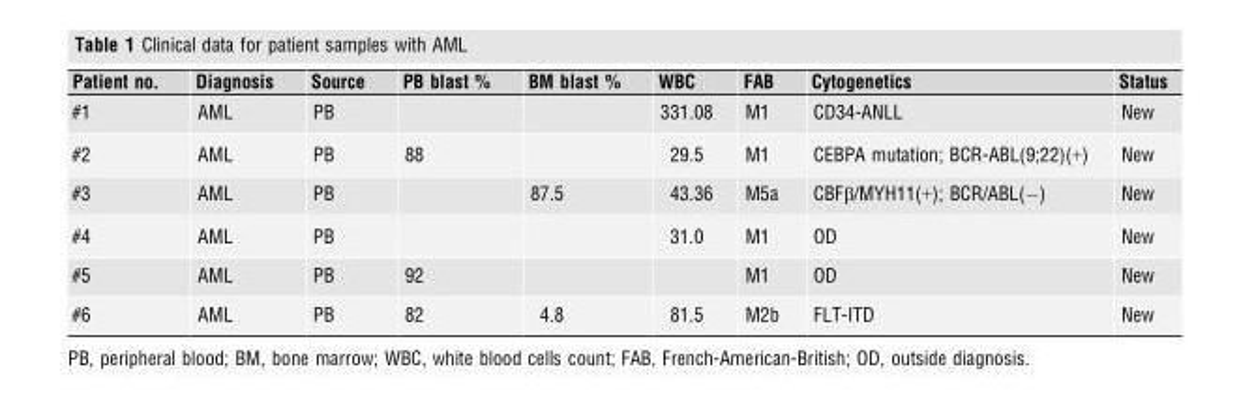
<table><thead><tr><td>Patient no.</td><td>Diagnosis</td><td>Source</td><td>PB blast %</td><td>BM blast %</td><td>WBC</td><td>FAB</td><td>Cytogenetics</td><td>Status</td></tr></thead><tbody><tr><td>#1</td><td>AML</td><td>PB</td><td></td><td></td><td>331.08</td><td>M1</td><td>CD34-ANLL</td><td>New</td></tr><tr><td>#2</td><td>AML</td><td>PB</td><td>88</td><td></td><td>29.5</td><td>M1</td><td>CEBPA mutation; BCR-ABL(9;22)(+)</td><td>New</td></tr><tr><td>#3</td><td>AML</td><td>PB</td><td></td><td>87.5</td><td>43.36</td><td>M5a</td><td>CBFβ/MYH11(+); BCR/ABL(−)</td><td>New</td></tr><tr><td>#4</td><td>AML</td><td>PB</td><td></td><td></td><td>31.0</td><td>M1</td><td>OD</td><td>New</td></tr><tr><td>#5</td><td>AML</td><td>PB</td><td>92</td><td></td><td></td><td>M1</td><td>OD</td><td>New</td></tr><tr><td>#6</td><td>AML</td><td>PB</td><td>82</td><td>4.8</td><td>81.5</td><td>M2b</td><td>FLT-ITD</td><td>New</td></tr></tbody></table>